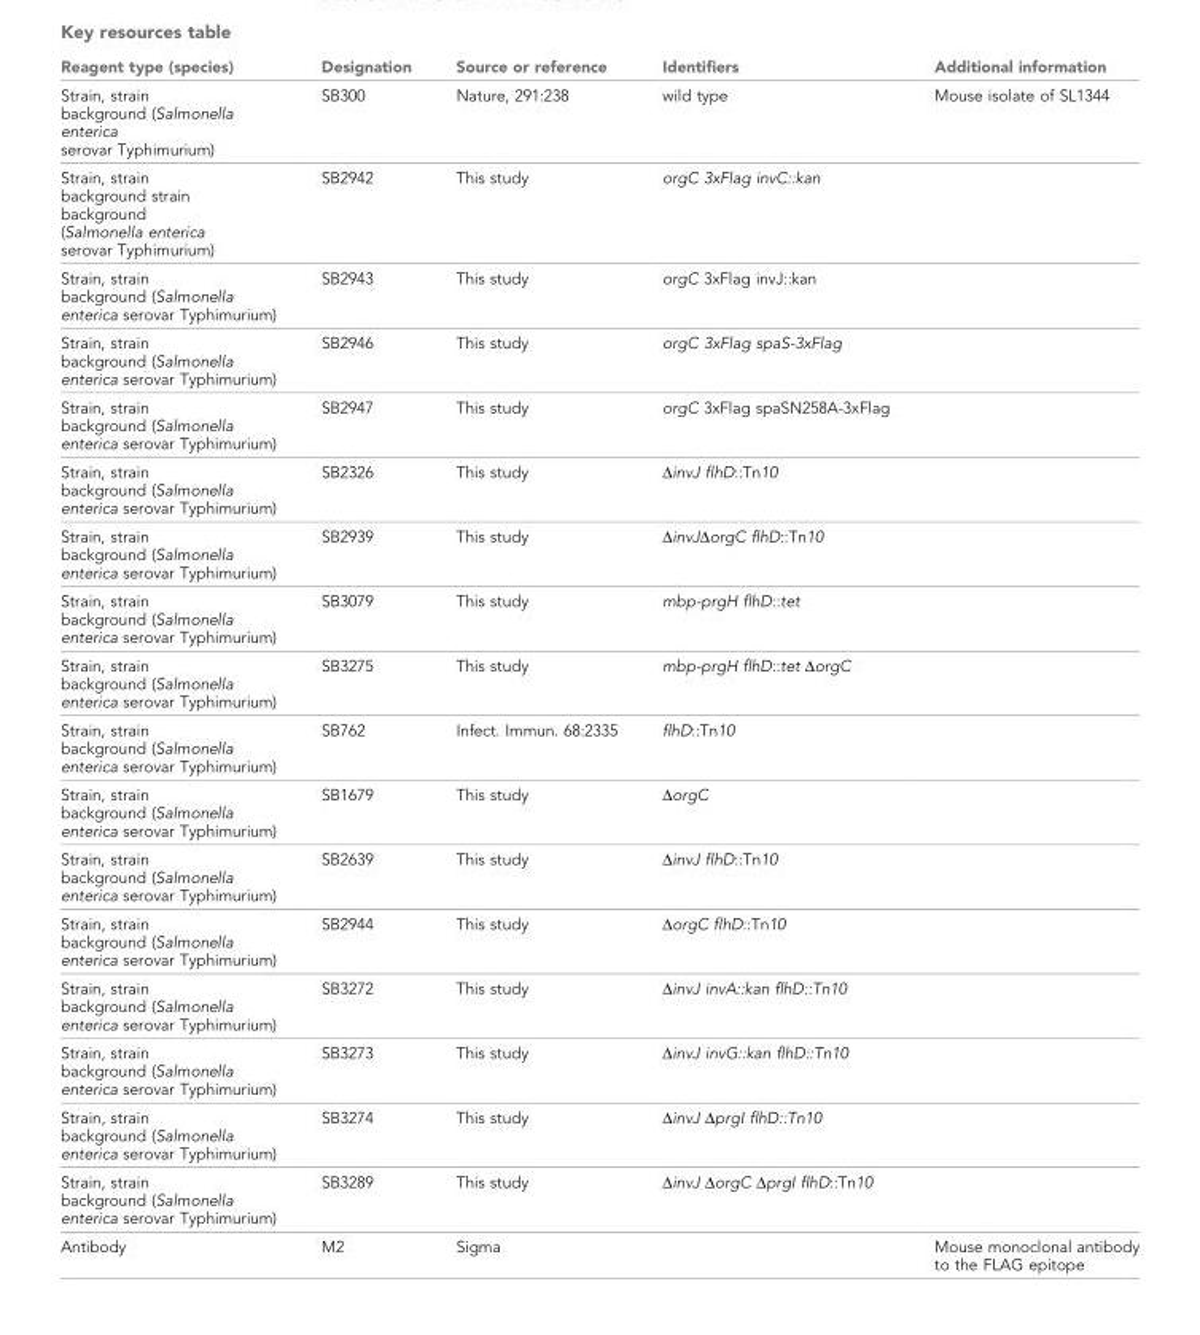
<table><thead><tr><td>Reagent type (species)</td><td>Designation</td><td>Source or reference</td><td>Identifiers</td><td>Additional information</td></tr></thead><tbody><tr><td>Strain, strain background (Salmonella enterica serovar Typhimurium)</td><td>SB300</td><td>Nature, 291:238</td><td>wild type</td><td>Mouse isolate of SL1344</td></tr><tr><td>Strain, strain background strain background (Salmonella enterica serovar Typhimurium)</td><td>SB2942</td><td>This study</td><td>orgC 3xFlag invC::kan</td><td></td></tr><tr><td>Strain, strain background (Salmonella enterica serovar Typhimurium)</td><td>SB2943</td><td>This study</td><td>orgC 3xFlag invJ::kan</td><td></td></tr><tr><td>Strain, strain background (Salmonella enterica serovar Typhimurium)</td><td>SB2946</td><td>This study</td><td>orgC 3xFlag spaS-3xFlag</td><td></td></tr><tr><td>Strain, strain background (Salmonella enterica serovar Typhimurium)</td><td>SB2947</td><td>This study</td><td>orgC 3xFlag spaSN258A-3xFlag</td><td></td></tr><tr><td>Strain, strain background (Salmonella enterica serovar Typhimurium)</td><td>SB2326</td><td>This study</td><td>∆invJ flhD::Tn10</td><td></td></tr><tr><td>Strain, strain background (Salmonella enterica serovar Typhimurium)</td><td>SB2939</td><td>This study</td><td>∆invJ∆orgC flhD::Tn10</td><td></td></tr><tr><td>Strain, strain background (Salmonella enterica serovar Typhimurium)</td><td>SB3079</td><td>This study</td><td>mbp-prgH flhD::tet</td><td></td></tr><tr><td>Strain, strain background (Salmonella enterica serovar Typhimurium)</td><td>SB3275</td><td>This study</td><td>mbp-prgH flhD::tet ∆orgC</td><td></td></tr><tr><td>Strain, strain background (Salmonella enterica serovar Typhimurium)</td><td>SB762</td><td>Infect. Immun. 68:2335</td><td>flhD::Tn10</td><td></td></tr><tr><td>Strain, strain background (Salmonella enterica serovar Typhimurium)</td><td>SB1679</td><td>This study</td><td>∆orgC</td><td></td></tr><tr><td>Strain, strain background (Salmonella enterica serovar Typhimurium)</td><td>SB2639</td><td>This study</td><td>∆invJ flhD::Tn10</td><td></td></tr><tr><td>Strain, strain background (Salmonella enterica serovar Typhimurium)</td><td>SB2944</td><td>This study</td><td>∆orgC flhD::Tn10</td><td></td></tr><tr><td>Strain, strain background (Salmonella enterica serovar Typhimurium)</td><td>SB3272</td><td>This study</td><td>∆invJ invA::kan flhD::Tn10</td><td></td></tr><tr><td>Strain, strain background (Salmonella enterica serovar Typhimurium)</td><td>SB3273</td><td>This study</td><td>∆invJ invG::kan flhD::Tn10</td><td></td></tr><tr><td>Strain, strain background (Salmonella enterica serovar Typhimurium)</td><td>SB3274</td><td>This study</td><td>∆invJ ∆prgI flhD::Tn10</td><td></td></tr><tr><td>Strain, strain background (Salmonella enterica serovar Typhimurium)</td><td>SB3289</td><td>This study</td><td>∆invJ ∆orgC ∆prgI flhD::Tn10</td><td></td></tr><tr><td>Antibody</td><td>M2</td><td>Sigma</td><td></td><td>Mouse monoclonal antibody to the FLAG epitope</td></tr></tbody></table>